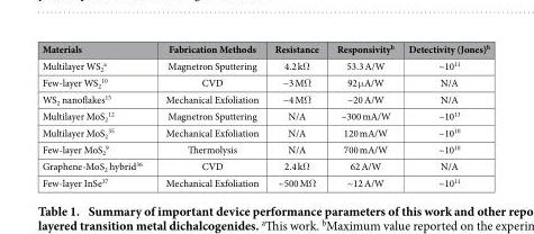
<table><thead><tr><td>Materials</td><td>Fabrication Methods</td><td>Resistance</td><td>Responsivity<sup>b</sup></td><td>Detectivity (Jones)<sup>b</sup></td></tr></thead><tbody><tr><td>Multilayer WS<sub>2</sub> <sup>a</sup></td><td>Magnetron Sputtering</td><td>4.2 kΩ</td><td>53.3 A/W</td><td>~10<sup>11</sup></td></tr><tr><td>Few-layer WS<sub>2</sub> <sup>10</sup></td><td>CVD</td><td>~3 MΩ</td><td>92 μ A/W</td><td>N/A</td></tr><tr><td>WS<sub>2</sub> nanoflakes<sup>15</sup></td><td>Mechanical Exfoliation</td><td>~4 MΩ</td><td>~20 A/W</td><td>N/A</td></tr><tr><td>Multilayer MoS<sub>2</sub> <sup>12</sup></td><td>Magnetron Sputtering</td><td>N/A</td><td>~300 mA/W</td><td>~10<sup>13</sup></td></tr><tr><td>Multilayer MoS<sub>2</sub> <sup>35</sup></td><td>Mechanical Exfoliation</td><td>N/A</td><td>120 mA/W</td><td>~10<sup>10</sup></td></tr><tr><td>Few-layer MoS<sub>2</sub> <sup>9</sup></td><td>Thermolysis</td><td>N/A</td><td>700 mA/W</td><td>~10<sup>10</sup></td></tr><tr><td>Graphene-MoS<sub>2</sub> hybrid<sup>36</sup></td><td>CVD</td><td>2.4 kΩ</td><td>62 A/W</td><td>N/A</td></tr><tr><td>Few-layer InSe<sup>37</sup></td><td>Mechanical Exfoliation</td><td>~500 MΩ</td><td>~12 A/W</td><td>~10<sup>11</sup></td></tr></tbody></table>